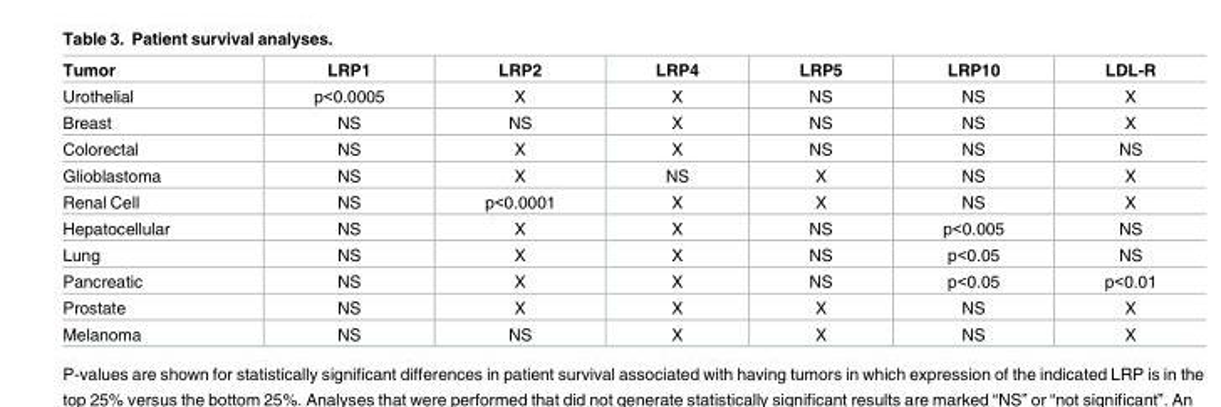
<table><thead><tr><td>Tumor</td><td>LRP1</td><td>LRP2</td><td>LRP4</td><td>LRP5</td><td>LRP10</td><td>LDL-R</td></tr></thead><tbody><tr><td>Urothelial</td><td>p&lt;0.0005</td><td>X</td><td>X</td><td>NS</td><td>NS</td><td>X</td></tr><tr><td>Breast</td><td>NS</td><td>NS</td><td>X</td><td>NS</td><td>NS</td><td>X</td></tr><tr><td>Colorectal</td><td>NS</td><td>X</td><td>X</td><td>NS</td><td>NS</td><td>NS</td></tr><tr><td>Glioblastoma</td><td>NS</td><td>X</td><td>NS</td><td>X</td><td>NS</td><td>X</td></tr><tr><td>Renal Cell</td><td>NS</td><td>p&lt;0.0001</td><td>X</td><td>X</td><td>NS</td><td>X</td></tr><tr><td>Hepatocellular</td><td>NS</td><td>X</td><td>X</td><td>NS</td><td>p&lt;0.005</td><td>NS</td></tr><tr><td>Lung</td><td>NS</td><td>X</td><td>X</td><td>NS</td><td>p&lt;0.05</td><td>NS</td></tr><tr><td>Pancreatic</td><td>NS</td><td>X</td><td>X</td><td>NS</td><td>p&lt;0.05</td><td>p&lt;0.01</td></tr><tr><td>Prostate</td><td>NS</td><td>X</td><td>X</td><td>X</td><td>NS</td><td>X</td></tr><tr><td>Melanoma</td><td>NS</td><td>NS</td><td>X</td><td>X</td><td>NS</td><td>X</td></tr></tbody></table>